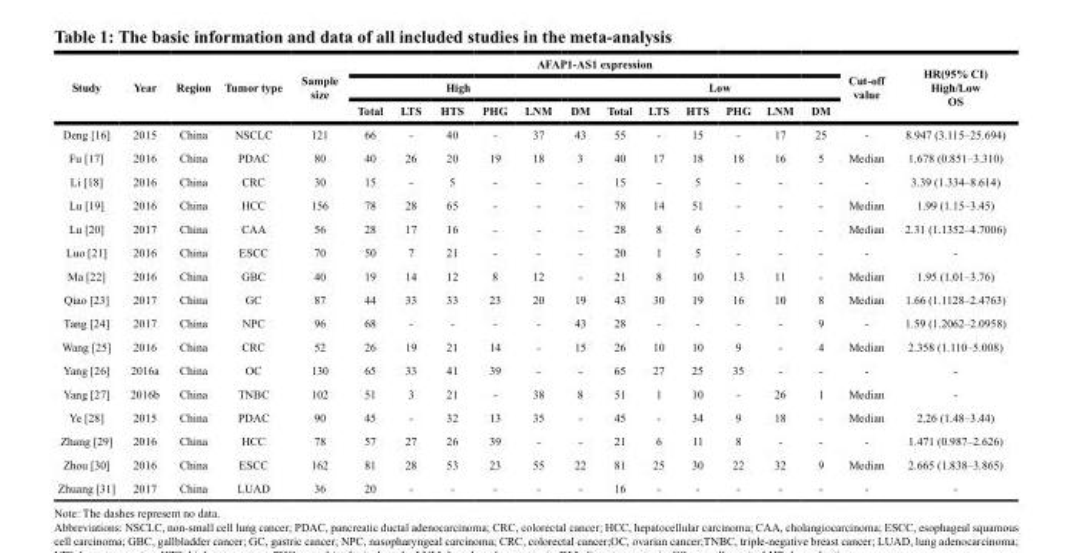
<table><thead><tr><td rowspan="3">Study</td><td rowspan="3">Year</td><td rowspan="3">Region</td><td rowspan="3">Tumor type</td><td rowspan="3">Sample size</td><td colspan="12">AFAP1-AS1 expression</td><td rowspan="3">Cut-off value</td><td rowspan="3">HR(95% CI) High/Low OS</td></tr><tr><td colspan="6">High</td><td colspan="6">Low</td></tr><tr><td>Total</td><td>LTS</td><td>HTS</td><td>PHG</td><td>LNM</td><td>DM</td><td>Total</td><td>LTS</td><td>HTS</td><td>PHG</td><td>LNM</td><td>DM</td></tr></thead><tbody><tr><td>Deng [16]</td><td>2015</td><td>China</td><td>NSCLC</td><td>121</td><td>66</td><td>-</td><td>40</td><td>-</td><td>37</td><td>43</td><td>55</td><td>-</td><td>15</td><td>-</td><td>17</td><td>25</td><td>-</td><td>8.947 (3.115–25.694)</td></tr><tr><td>Fu [17]</td><td>2016</td><td>China</td><td>PDAC</td><td>80</td><td>40</td><td>26</td><td>20</td><td>19</td><td>18</td><td>3</td><td>40</td><td>17</td><td>18</td><td>18</td><td>16</td><td>5</td><td>Median</td><td>1.678 (0.851–3.310)</td></tr><tr><td>Li [18]</td><td>2016</td><td>China</td><td>CRC</td><td>30</td><td>15</td><td>-</td><td>5</td><td>-</td><td>-</td><td>-</td><td>15</td><td>-</td><td>5</td><td>-</td><td>-</td><td>-</td><td>-</td><td>3.39 (1.334–8.614)</td></tr><tr><td>Lu [19]</td><td>2016</td><td>China</td><td>HCC</td><td>156</td><td>78</td><td>28</td><td>65</td><td>-</td><td>-</td><td>-</td><td>78</td><td>14</td><td>51</td><td>-</td><td>-</td><td>-</td><td>Median</td><td>1.99 (1.15–3.45)</td></tr><tr><td>Lu [20]</td><td>2017</td><td>China</td><td>CAA</td><td>56</td><td>28</td><td>17</td><td>16</td><td>-</td><td>-</td><td>-</td><td>28</td><td>8</td><td>6</td><td>-</td><td>-</td><td>-</td><td>Median</td><td>2.31 (1.1352–4.7006)</td></tr><tr><td>Luo [21]</td><td>2016</td><td>China</td><td>ESCC</td><td>70</td><td>50</td><td>7</td><td>21</td><td>-</td><td>-</td><td>-</td><td>20</td><td>1</td><td>5</td><td>-</td><td>-</td><td>-</td><td>-</td><td>-</td></tr><tr><td>Ma [22]</td><td>2016</td><td>China</td><td>GBC</td><td>40</td><td>19</td><td>14</td><td>12</td><td>8</td><td>12</td><td>-</td><td>21</td><td>8</td><td>10</td><td>13</td><td>11</td><td>-</td><td>Median</td><td>1.95 (1.01–3.76)</td></tr><tr><td>Qiao [23]</td><td>2017</td><td>China</td><td>GC</td><td>87</td><td>44</td><td>33</td><td>33</td><td>23</td><td>20</td><td>19</td><td>43</td><td>30</td><td>19</td><td>16</td><td>10</td><td>8</td><td>Median</td><td>1.66 (1.1128–2.4763)</td></tr><tr><td>Tang [24]</td><td>2017</td><td>China</td><td>NPC</td><td>96</td><td>68</td><td>-</td><td>-</td><td>-</td><td>-</td><td>43</td><td>28</td><td>-</td><td>-</td><td>-</td><td>-</td><td>9</td><td>-</td><td>1.59 (1.2062–2.0958)</td></tr><tr><td>Wang [25]</td><td>2016</td><td>China</td><td>CRC</td><td>52</td><td>26</td><td>19</td><td>21</td><td>14</td><td>-</td><td>15</td><td>26</td><td>10</td><td>10</td><td>9</td><td>-</td><td>4</td><td>Median</td><td>2.358 (1.110–5.008)</td></tr><tr><td>Yang [26]</td><td>2016a</td><td>China</td><td>OC</td><td>130</td><td>65</td><td>33</td><td>41</td><td>39</td><td>-</td><td>-</td><td>65</td><td>27</td><td>25</td><td>35</td><td>-</td><td>-</td><td>-</td><td>-</td></tr><tr><td>Yang [27]</td><td>2016b</td><td>China</td><td>TNBC</td><td>102</td><td>51</td><td>3</td><td>21</td><td>-</td><td>38</td><td>8</td><td>51</td><td>1</td><td>10</td><td>-</td><td>26</td><td>1</td><td>Median</td><td>-</td></tr><tr><td>Ye [28]</td><td>2015</td><td>China</td><td>PDAC</td><td>90</td><td>45</td><td>-</td><td>32</td><td>13</td><td>35</td><td>-</td><td>45</td><td>-</td><td>34</td><td>9</td><td>18</td><td>-</td><td>Median</td><td>2.26 (1.48–3.44)</td></tr><tr><td>Zhang [29]</td><td>2016</td><td>China</td><td>HCC</td><td>78</td><td>57</td><td>27</td><td>26</td><td>39</td><td>-</td><td>-</td><td>21</td><td>6</td><td>11</td><td>8</td><td>-</td><td>-</td><td>-</td><td>1.471 (0.987–2.626)</td></tr><tr><td>Zhou [30]</td><td>2016</td><td>China</td><td>ESCC</td><td>162</td><td>81</td><td>28</td><td>53</td><td>23</td><td>55</td><td>22</td><td>81</td><td>25</td><td>30</td><td>22</td><td>32</td><td>9</td><td>Median</td><td>2.665 (1.838–3.865)</td></tr><tr><td>Zhuang [31]</td><td>2017</td><td>China</td><td>LUAD</td><td>36</td><td>20</td><td>-</td><td>-</td><td>-</td><td>-</td><td>-</td><td>16</td><td>-</td><td>-</td><td>-</td><td>-</td><td>-</td><td>-</td><td>-</td></tr></tbody></table>